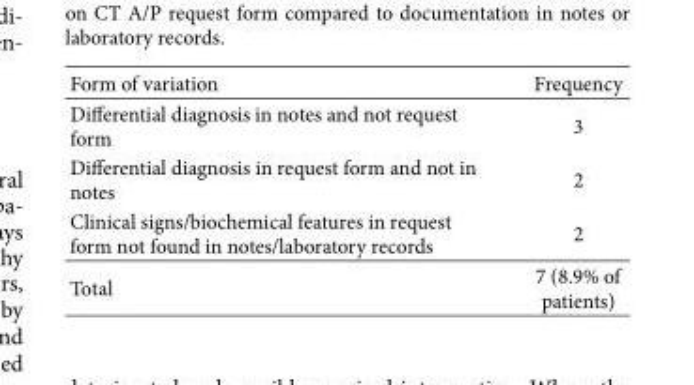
<table><thead><tr><td>Form of variation</td><td>Frequency</td></tr></thead><tbody><tr><td>Differential diagnosis in notes and not request form</td><td>3</td></tr><tr><td>Differential diagnosis in request form and not in notes</td><td>2</td></tr><tr><td>Clinical signs/biochemical features in request form not found in notes/laboratory records</td><td>2</td></tr><tr><td>Total</td><td>7 (8.9% of patients)</td></tr></tbody></table>